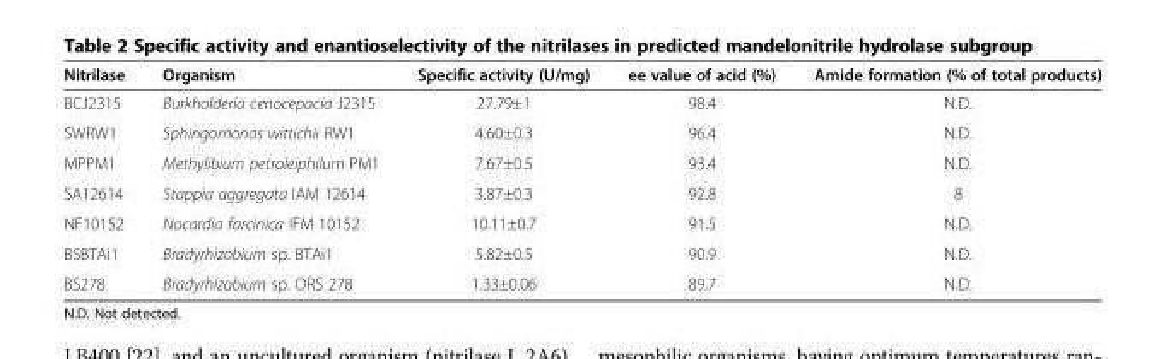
<table><thead><tr><td>Nitrilase</td><td>Organism</td><td>Specific activity (U/mg)</td><td>ee value of acid (%)</td><td>Amide formation (% of total products)</td></tr></thead><tbody><tr><td>BCJ2315</td><td>Burkholderia cenocepacia J2315</td><td>27.79±1</td><td>98.4</td><td>N.D.</td></tr><tr><td>SWRW1</td><td>Sphingomonas wittichii RW1</td><td>4.60±0.3</td><td>96.4</td><td>N.D.</td></tr><tr><td>MPPM1</td><td>Methylibium petroleiphilum PM1</td><td>7.67±0.5</td><td>93.4</td><td>N.D.</td></tr><tr><td>SA12614</td><td>Stappia aggregata IAM 12614</td><td>3.87±0.3</td><td>92.8</td><td>8</td></tr><tr><td>NF10152</td><td>Nocardia farcinica IFM 10152</td><td>10.11±0.7</td><td>91.5</td><td>N.D.</td></tr><tr><td>BSBTAi1</td><td>Bradyrhizobium sp. BTAi1</td><td>5.82±0.5</td><td>90.9</td><td>N.D.</td></tr><tr><td>BS278</td><td>Bradyrhizobium sp. ORS 278</td><td>1.33±0.06</td><td>89.7</td><td>N.D.</td></tr></tbody></table>